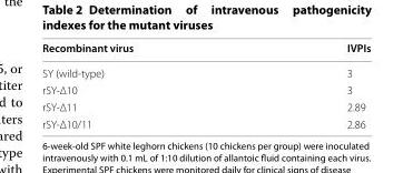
<table><thead><tr><td>Recombinant virus</td><td>IVPIs</td></tr></thead><tbody><tr><td>SY (wild-type)</td><td>3</td></tr><tr><td>rSY-Δ10</td><td>3</td></tr><tr><td>rSY-Δ11</td><td>2.89</td></tr><tr><td>rSY-Δ10/11</td><td>2.86</td></tr></tbody></table>